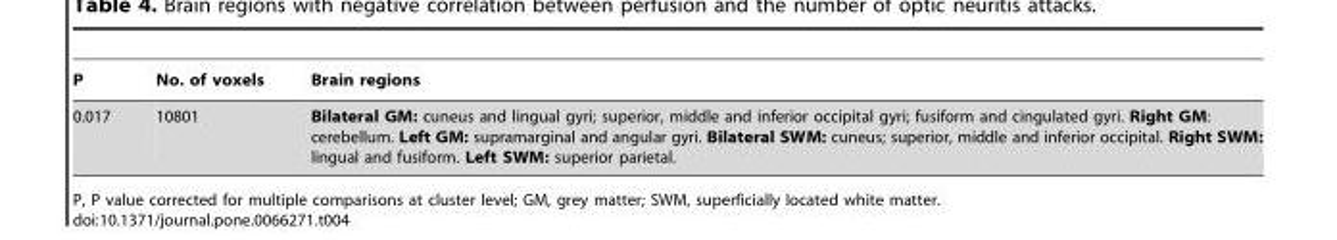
<table><thead><tr><td>P</td><td>No. of voxels</td><td>Brain regions</td></tr></thead><tbody><tr><td>0.017</td><td>10801</td><td>Bilateral GM: cuneus and lingual gyri; superior, middle and inferior occipital gyri; fusiform and cingulated gyri. Right GM: cerebellum. Left GM: supramarginal and angular gyri. Bilateral SWM: cuneus; superior, middle and inferior occipital. Right SWM: lingual and fusiform. Left SWM: superior parietal.</td></tr></tbody></table>